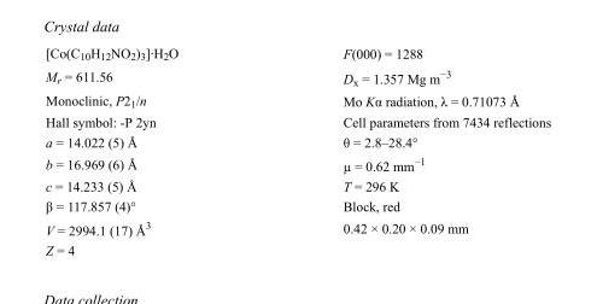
<table><tbody><tr><td>[Co(C<sub>10</sub>H<sub>12</sub>NO<sub>2</sub>)<sub>3</sub>]·H<sub>2</sub>O</td><td>F(000) = 1288</td></tr><tr><td>M<sub>r</sub> = 611.56</td><td>D<sub>x</sub> = 1.357 Mg m<sup>−3</sup></td></tr><tr><td>Monoclinic, P2<sub>1</sub>/n</td><td>Mo Kα radiation, λ = 0.71073 Å</td></tr><tr><td>Hall symbol: -P 2yn</td><td>Cell parameters from 7434 reflections</td></tr><tr><td>a = 14.022 (5) Å</td><td>θ = 2.8–28.4°</td></tr><tr><td>b = 16.969 (6) Å</td><td>µ = 0.62 mm<sup>−1</sup></td></tr><tr><td>c = 14.233 (5) Å</td><td>T = 296 K</td></tr><tr><td>β = 117.857 (4)°</td><td>Block, red</td></tr><tr><td>V = 2994.1 (17) Å<sup>3</sup></td><td>0.42 × 0.20 × 0.09 mm</td></tr><tr><td>Z = 4</td><td></td></tr></tbody></table>